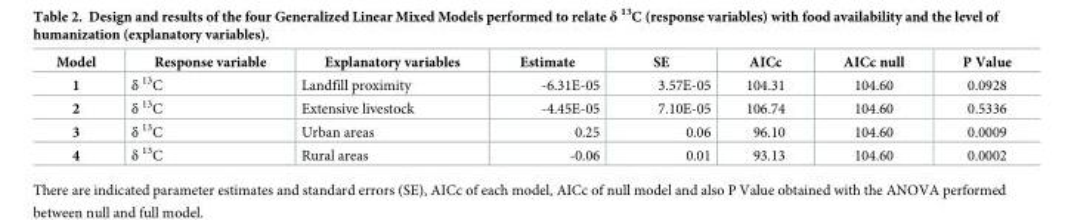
<table><thead><tr><td>Model</td><td>Response variable</td><td>Explanatory variables</td><td>Estimate</td><td>SE</td><td>AICc</td><td>AICc null</td><td>P Value</td></tr></thead><tbody><tr><td>1</td><td>δ <sup>13</sup>C</td><td>Landfill proximity</td><td>-6.31E-05</td><td>3.57E-05</td><td>104.31</td><td>104.60</td><td>0.0928</td></tr><tr><td>2</td><td>δ <sup>13</sup>C</td><td>Extensive livestock</td><td>-4.45E-05</td><td>7.10E-05</td><td>106.74</td><td>104.60</td><td>0.5336</td></tr><tr><td>3</td><td>δ <sup>13</sup>C</td><td>Urban areas</td><td>0.25</td><td>0.06</td><td>96.10</td><td>104.60</td><td>0.0009</td></tr><tr><td>4</td><td>δ <sup>13</sup>C</td><td>Rural areas</td><td>-0.06</td><td>0.01</td><td>93.13</td><td>104.60</td><td>0.0002</td></tr></tbody></table>